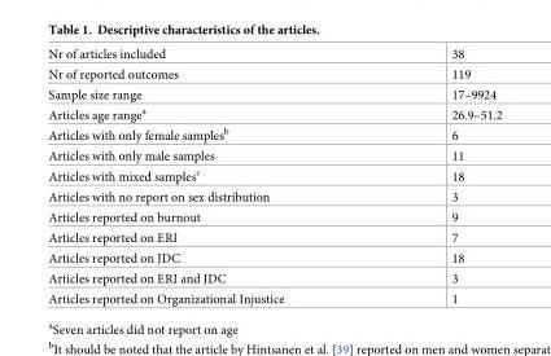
<table><tbody><tr><td>Nr of articles included</td><td>38</td></tr><tr><td>Nr of reported outcomes</td><td>119</td></tr><tr><td>Sample size range</td><td>17–9924</td></tr><tr><td>Articles age range<sup>a</sup></td><td>26.9–51.2</td></tr><tr><td>Articles with only female samples<sup>b</sup></td><td>6</td></tr><tr><td>Articles with only male samples</td><td>11</td></tr><tr><td>Articles with mixed samples<sup>c</sup></td><td>18</td></tr><tr><td>Articles with no report on sex distribution</td><td>3</td></tr><tr><td>Articles reported on burnout</td><td>9</td></tr><tr><td>Articles reported on ERI</td><td>7</td></tr><tr><td>Articles reported on JDC</td><td>18</td></tr><tr><td>Articles reported on ERI and JDC</td><td>3</td></tr><tr><td>Articles reported on Organizational Injustice</td><td>1</td></tr></tbody></table>